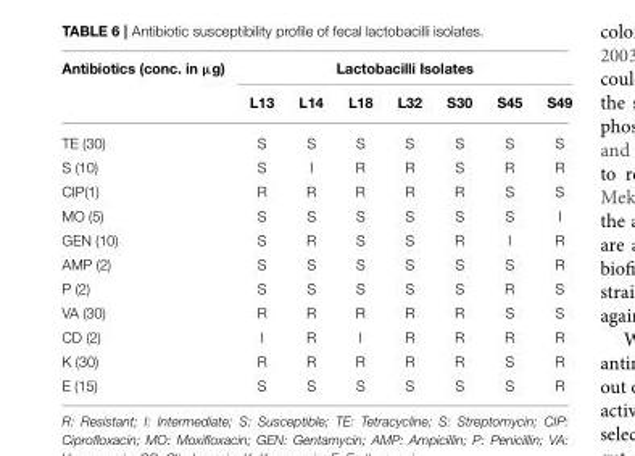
<table><thead><tr><td rowspan="2">Antibiotics (conc. in µg)</td><td colspan="7">Lactobacilli Isolates</td></tr><tr><td>L13</td><td>L14</td><td>L18</td><td>L32</td><td>S30</td><td>S45</td><td>S49</td></tr></thead><tbody><tr><td>TE (30)</td><td>S</td><td>S</td><td>S</td><td>S</td><td>S</td><td>S</td><td>S</td></tr><tr><td>S (10)</td><td>S</td><td>I</td><td>R</td><td>R</td><td>S</td><td>R</td><td>R</td></tr><tr><td>CIP(1)</td><td>R</td><td>R</td><td>R</td><td>R</td><td>R</td><td>S</td><td>S</td></tr><tr><td>MO (5)</td><td>S</td><td>S</td><td>S</td><td>S</td><td>S</td><td>S</td><td>I</td></tr><tr><td>GEN (10)</td><td>S</td><td>R</td><td>S</td><td>S</td><td>R</td><td>I</td><td>R</td></tr><tr><td>AMP (2)</td><td>S</td><td>S</td><td>S</td><td>S</td><td>S</td><td>S</td><td>R</td></tr><tr><td>P (2)</td><td>S</td><td>S</td><td>S</td><td>S</td><td>S</td><td>R</td><td>S</td></tr><tr><td>VA (30)</td><td>R</td><td>R</td><td>R</td><td>R</td><td>R</td><td>S</td><td>S</td></tr><tr><td>CD (2)</td><td>I</td><td>R</td><td>I</td><td>R</td><td>R</td><td>R</td><td>R</td></tr><tr><td>K (30)</td><td>R</td><td>R</td><td>R</td><td>R</td><td>R</td><td>S</td><td>R</td></tr><tr><td>E (15)</td><td>S</td><td>S</td><td>S</td><td>S</td><td>S</td><td>S</td><td>R</td></tr></tbody></table>